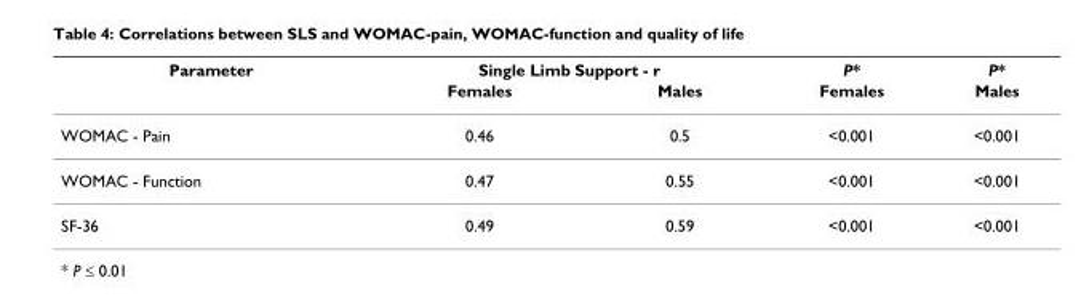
<table><thead><tr><td rowspan="2">Parameter</td><td colspan="2">Single Limb Support - r</td><td rowspan="2">P* Females</td><td rowspan="2">P* Males</td></tr><tr><td>Females</td><td>Males</td></tr></thead><tbody><tr><td>WOMAC - Pain</td><td>0.46</td><td>0.5</td><td>&lt;0.001</td><td>&lt;0.001</td></tr><tr><td>WOMAC - Function</td><td>0.47</td><td>0.55</td><td>&lt;0.001</td><td>&lt;0.001</td></tr><tr><td>SF-36</td><td>0.49</td><td>0.59</td><td>&lt;0.001</td><td>&lt;0.001</td></tr></tbody></table>